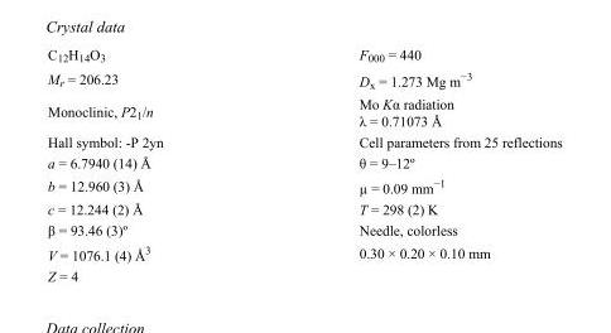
<table><tbody><tr><td>C<sub>12</sub>H<sub>14</sub>O<sub>3</sub></td><td>F000 = 440</td></tr><tr><td>M<sub>r</sub> = 206.23</td><td>D<sub>x</sub> = 1.273 Mg m<sup>−3</sup></td></tr><tr><td>Monoclinic, P2<sub>1</sub>/n</td><td>Mo Kα radiation λ = 0.71073 Å</td></tr><tr><td>Hall symbol: -P 2yn</td><td>Cell parameters from 25 reflections</td></tr><tr><td>a = 6.7940 (14) Å</td><td>θ = 9–12º</td></tr><tr><td>b = 12.960 (3) Å</td><td>µ = 0.09 mm<sup>−1</sup></td></tr><tr><td>c = 12.244 (2) Å</td><td>T = 298 (2) K</td></tr><tr><td>β = 93.46 (3)º</td><td>Needle, colorless</td></tr><tr><td>V = 1076.1 (4) Å<sup>3</sup></td><td>0.30 × 0.20 × 0.10 mm</td></tr><tr><td>Z = 4</td><td></td></tr></tbody></table>